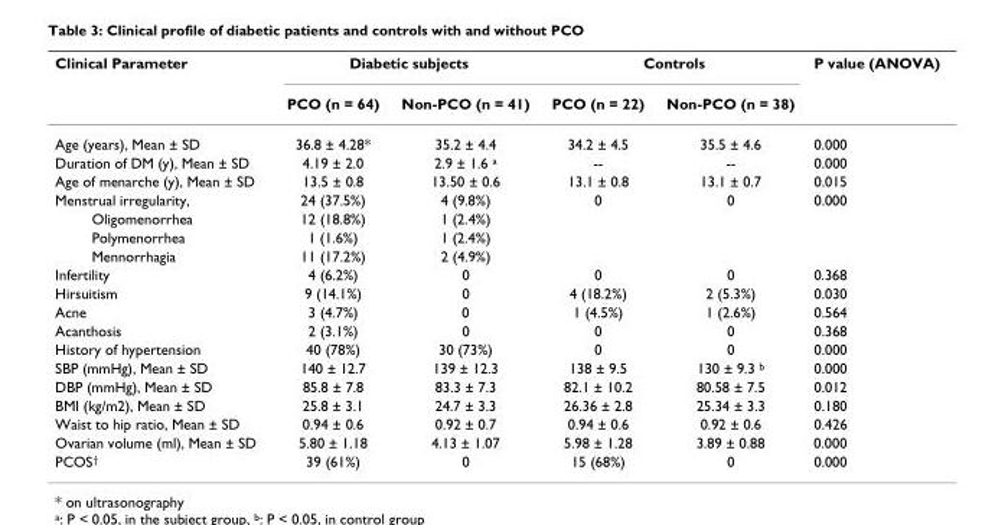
<table><thead><tr><td rowspan="2">Clinical Parameter</td><td colspan="2">Diabetic subjects</td><td colspan="2">Controls</td><td rowspan="2">P value (ANOVA)</td></tr><tr><td>PCO (n = 64)</td><td>Non-PCO (n = 41)</td><td>PCO (n = 22)</td><td>Non-PCO (n = 38)</td></tr></thead><tbody><tr><td>Age (years), Mean ± SD</td><td>36.8 ± 4.28*</td><td>35.2 ± 4.4</td><td>34.2 ± 4.5</td><td>35.5 ± 4.6</td><td>0.000</td></tr><tr><td>Duration of DM (y), Mean ± SD</td><td>4.19 ± 2.0</td><td>2.9 ± 1.6 <sup>a</sup></td><td>--</td><td>--</td><td>0.000</td></tr><tr><td>Age of menarche (y), Mean ± SD</td><td>13.5 ± 0.8</td><td>13.50 ± 0.6</td><td>13.1 ± 0.8</td><td>13.1 ± 0.7</td><td>0.015</td></tr><tr><td>Menstrual irregularity,</td><td>24 (37.5%)</td><td>4 (9.8%)</td><td>0</td><td>0</td><td>0.000</td></tr><tr><td>Oligomenorrhea</td><td>12 (18.8%)</td><td>1 (2.4%)</td><td></td><td></td><td></td></tr><tr><td>Polymenorrhea</td><td>1 (1.6%)</td><td>1 (2.4%)</td><td></td><td></td><td></td></tr><tr><td>Mennorrhagia</td><td>11 (17.2%)</td><td>2 (4.9%)</td><td></td><td></td><td></td></tr><tr><td>Infertility</td><td>4 (6.2%)</td><td>0</td><td>0</td><td>0</td><td>0.368</td></tr><tr><td>Hirsuitism</td><td>9 (14.1%)</td><td>0</td><td>4 (18.2%)</td><td>2 (5.3%)</td><td>0.030</td></tr><tr><td>Acne</td><td>3 (4.7%)</td><td>0</td><td>1 (4.5%)</td><td>1 (2.6%)</td><td>0.564</td></tr><tr><td>Acanthosis</td><td>2 (3.1%)</td><td>0</td><td>0</td><td>0</td><td>0.368</td></tr><tr><td>History of hypertension</td><td>40 (78%)</td><td>30 (73%)</td><td>0</td><td>0</td><td>0.000</td></tr><tr><td>SBP (mmHg), Mean ± SD</td><td>140 ± 12.7</td><td>139 ± 12.3</td><td>138 ± 9.5</td><td>130 ± 9.3 <sup>b</sup></td><td>0.000</td></tr><tr><td>DBP (mmHg), Mean ± SD</td><td>85.8 ± 7.8</td><td>83.3 ± 7.3</td><td>82.1 ± 10.2</td><td>80.58 ± 7.5</td><td>0.012</td></tr><tr><td>BMI (kg/m2), Mean ± SD</td><td>25.8 ± 3.1</td><td>24.7 ± 3.3</td><td>26.36 ± 2.8</td><td>25.34 ± 3.3</td><td>0.180</td></tr><tr><td>Waist to hip ratio, Mean ± SD</td><td>0.94 ± 0.6</td><td>0.92 ± 0.7</td><td>0.94 ± 0.6</td><td>0.92 ± 0.6</td><td>0.426</td></tr><tr><td>Ovarian volume (ml), Mean ± SD</td><td>5.80 ± 1.18</td><td>4.13 ± 1.07</td><td>5.98 ± 1.28</td><td>3.89 ± 0.88</td><td>0.000</td></tr><tr><td>PCOS<sup>†</sup></td><td>39 (61%)</td><td>0</td><td>15 (68%)</td><td>0</td><td>0.000</td></tr></tbody></table>